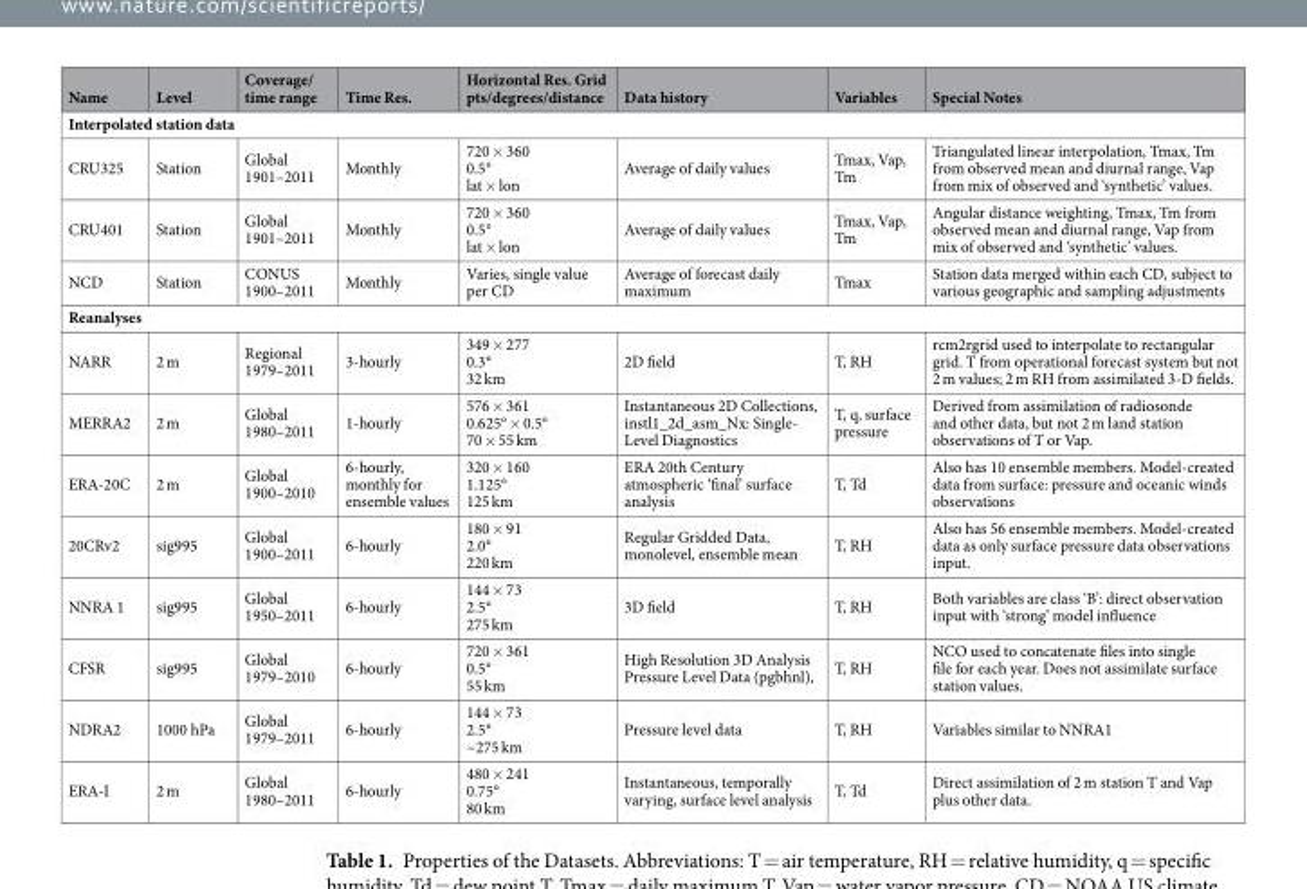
<table><thead><tr><td>Name</td><td>Level</td><td>Coverage/ time range</td><td>Time Res.</td><td>Horizontal Res. Grid pts/degrees/distance</td><td>Data history</td><td>Variables</td><td>Special Notes</td></tr></thead><tbody><tr><td colspan="8">Interpolated station data</td></tr><tr><td>CRU325</td><td>Station</td><td>Global 1901–2011</td><td>Monthly</td><td>720 × 360 0.5° lat × lon</td><td>Average of daily values</td><td>Tmax, Vap, Tm</td><td>Triangulated linear interpolation, Tmax, Tm from observed mean and diurnal range, Vap from mix of observed and ‘synthetic’ values.</td></tr><tr><td>CRU401</td><td>Station</td><td>Global 1901–2011</td><td>Monthly</td><td>720 × 360 0.5° lat × lon</td><td>Average of daily values</td><td>Tmax, Vap, Tm</td><td>Angular distance weighting, Tmax, Tm from observed mean and diurnal range, Vap from mix of observed and ‘synthetic’ values.</td></tr><tr><td>NCD</td><td>Station</td><td>CONUS 1900–2011</td><td>Monthly</td><td>Varies, single value per CD</td><td>Average of forecast daily maximum</td><td>Tmax</td><td>Station data merged within each CD, subject to various geographic and sampling adjustments</td></tr><tr><td colspan="8">Reanalyses</td></tr><tr><td>NARR</td><td>2 m</td><td>Regional 1979–2011</td><td>3-hourly</td><td>349 × 277 0.3° 32 km</td><td>2D field</td><td>T, RH</td><td>rcm2rgrid used to interpolate to rectangular grid. T from operational forecast system but not 2 m values; 2 m RH from assimilated 3-D fields.</td></tr><tr><td>MERRA2</td><td>2 m</td><td>Global 1980–2011</td><td>1-hourly</td><td>576 × 361 0.625° × 0.5° 70 × 55 km</td><td>Instantaneous 2D Collections, instl1_2d_asm_Nx: Single- Level Diagnostics</td><td>T, q, surface pressure</td><td>Derived from assimilation of radiosonde and other data, but not 2 m land station observations of T or Vap.</td></tr><tr><td>ERA-20C</td><td>2 m</td><td>Global 1900–2010</td><td>6-hourly, monthly for ensemble values</td><td>320 × 160 1.125° 125 km</td><td>ERA 20th Century atmospheric ‘final’ surface analysis</td><td>T, Td</td><td>Also has 10 ensemble members. Model-created data from surface: pressure and oceanic winds observations</td></tr><tr><td>20CRv2</td><td>sig995</td><td>Global 1900–2011</td><td>6-hourly</td><td>180 × 91 2.0° 220 km</td><td>Regular Gridded Data, monolevel, ensemble mean</td><td>T, RH</td><td>Also has 56 ensemble members. Model-created data as only surface pressure data observations input.</td></tr><tr><td>NNRA 1</td><td>sig995</td><td>Global 1950–2011</td><td>6-hourly</td><td>144 × 73 2.5° 275 km</td><td>3D field</td><td>T, RH</td><td>Both variables are class ‘B’: direct observation input with ‘strong’ model influence</td></tr><tr><td>CFSR</td><td>sig995</td><td>Global 1979–2010</td><td>6-hourly</td><td>720 × 361 0.5° 55 km</td><td>High Resolution 3D Analysis Pressure Level Data (pgbhnl),</td><td>T, RH</td><td>NCO used to concatenate files into single file for each year. Does not assimilate surface station values.</td></tr><tr><td>NDRA2</td><td>1000 hPa</td><td>Global 1979–2011</td><td>6-hourly</td><td>144 × 73 2.5° ~275 km</td><td>Pressure level data</td><td>T, RH</td><td>Variables similar to NNRA1</td></tr><tr><td>ERA-I</td><td>2 m</td><td>Global 1980–2011</td><td>6-hourly</td><td>480 × 241 0.75° 80 km</td><td>Instantaneous, temporally varying, surface level analysis</td><td>T, Td</td><td>Direct assimilation of 2 m station T and Vap plus other data.</td></tr></tbody></table>